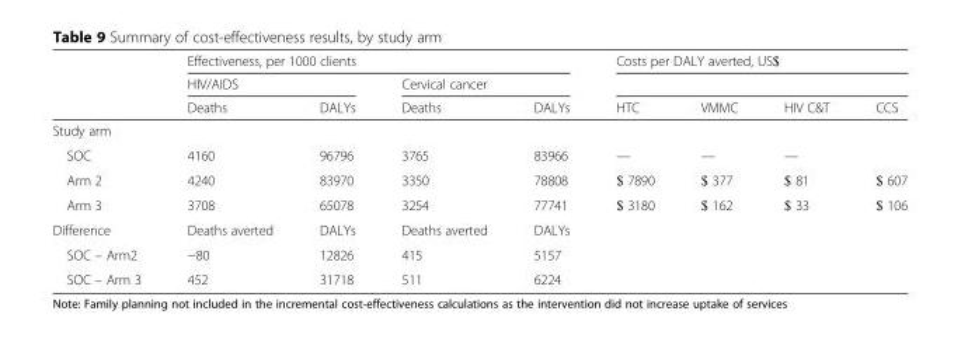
<table><thead><tr><td rowspan="3"></td><td colspan="4">Effectiveness, per 1000 clients</td><td colspan="4">Costs per DALY averted, US$</td></tr><tr><td colspan="2">HIV/AIDS</td><td colspan="2">Cervical cancer</td><td rowspan="2">HTC</td><td rowspan="2">VMMC</td><td rowspan="2">HIV C&amp;T</td><td rowspan="2">CCS</td></tr><tr><td>Deaths</td><td>DALYs</td><td>Deaths</td><td>DALYs</td></tr></thead><tbody><tr><td colspan="9">Study arm</td></tr><tr><td>SOC</td><td>4160</td><td>96796</td><td>3765</td><td>83966</td><td>—</td><td>—</td><td>—</td><td></td></tr><tr><td>Arm 2</td><td>4240</td><td>83970</td><td>3350</td><td>78808</td><td>$ 7890</td><td>$ 377</td><td>$ 81</td><td>$ 607</td></tr><tr><td>Arm 3</td><td>3708</td><td>65078</td><td>3254</td><td>77741</td><td>$ 3180</td><td>$ 162</td><td>$ 33</td><td>$ 106</td></tr><tr><td>Difference</td><td>Deaths averted</td><td>DALYs</td><td>Deaths averted</td><td>DALYs</td><td></td><td></td><td></td><td></td></tr><tr><td>SOC – Arm2</td><td>−80</td><td>12826</td><td>415</td><td>5157</td><td></td><td></td><td></td><td></td></tr><tr><td>SOC – Arm 3</td><td>452</td><td>31718</td><td>511</td><td>6224</td><td></td><td></td><td></td><td></td></tr></tbody></table>